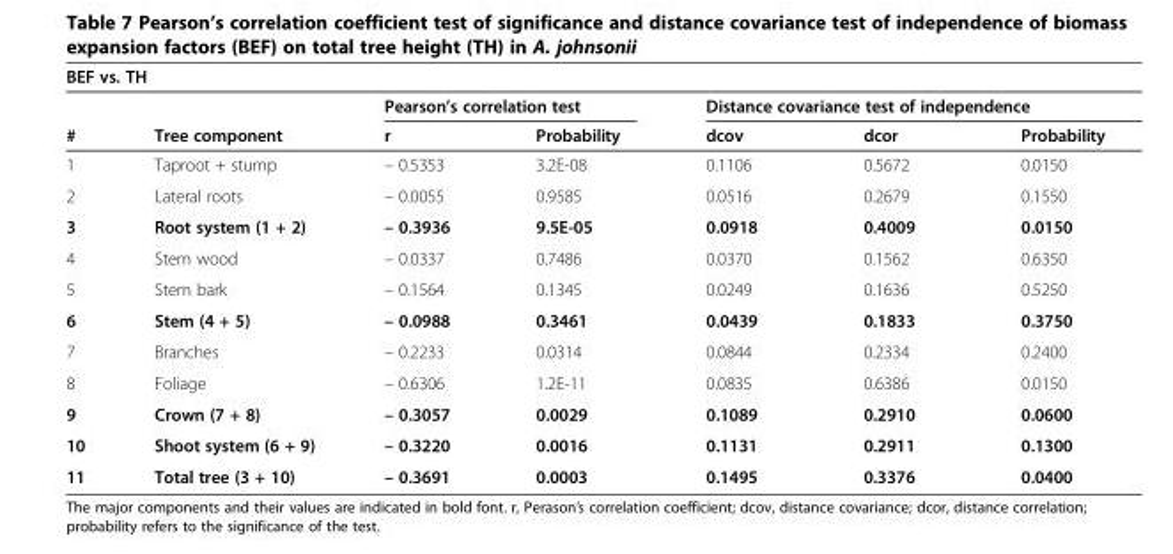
<table><thead><tr><td colspan="7">BEF vs. TH</td></tr><tr><td rowspan="2">#</td><td rowspan="2">Tree component</td><td colspan="2">Pearson’s correlation test</td><td colspan="3">Distance covariance test of independence</td></tr><tr><td>r</td><td>Probability</td><td>dcov</td><td>dcor</td><td>Probability</td></tr></thead><tbody><tr><td>1</td><td>Taproot + stump</td><td>– 0.5353</td><td>3.2E-08</td><td>0.1106</td><td>0.5672</td><td>0.0150</td></tr><tr><td>2</td><td>Lateral roots</td><td>– 0.0055</td><td>0.9585</td><td>0.0516</td><td>0.2679</td><td>0.1550</td></tr><tr><td>3</td><td>Root system (1 + 2)</td><td>– 0.3936</td><td>9.5E-05</td><td>0.0918</td><td>0.4009</td><td>0.0150</td></tr><tr><td>4</td><td>Stem wood</td><td>– 0.0337</td><td>0.7486</td><td>0.0370</td><td>0.1562</td><td>0.6350</td></tr><tr><td>5</td><td>Stem bark</td><td>– 0.1564</td><td>0.1345</td><td>0.0249</td><td>0.1636</td><td>0.5250</td></tr><tr><td>6</td><td>Stem (4 + 5)</td><td>– 0.0988</td><td>0.3461</td><td>0.0439</td><td>0.1833</td><td>0.3750</td></tr><tr><td>7</td><td>Branches</td><td>– 0.2233</td><td>0.0314</td><td>0.0844</td><td>0.2334</td><td>0.2400</td></tr><tr><td>8</td><td>Foliage</td><td>– 0.6306</td><td>1.2E-11</td><td>0.0835</td><td>0.6386</td><td>0.0150</td></tr><tr><td>9</td><td>Crown (7 + 8)</td><td>– 0.3057</td><td>0.0029</td><td>0.1089</td><td>0.2910</td><td>0.0600</td></tr><tr><td>10</td><td>Shoot system (6 + 9)</td><td>– 0.3220</td><td>0.0016</td><td>0.1131</td><td>0.2911</td><td>0.1300</td></tr><tr><td>11</td><td>Total tree (3 + 10)</td><td>– 0.3691</td><td>0.0003</td><td>0.1495</td><td>0.3376</td><td>0.0400</td></tr></tbody></table>